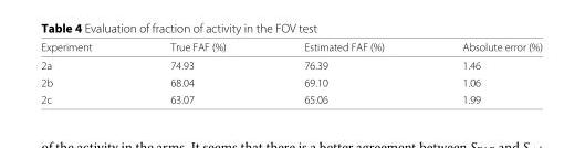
<table><thead><tr><td>Experiment</td><td>True FAF (%)</td><td>Estimated FAF (%)</td><td>Absolute error (%)</td></tr></thead><tbody><tr><td>2a</td><td>74.93</td><td>76.39</td><td>1.46</td></tr><tr><td>2b</td><td>68.04</td><td>69.10</td><td>1.06</td></tr><tr><td>2c</td><td>63.07</td><td>65.06</td><td>1.99</td></tr></tbody></table>